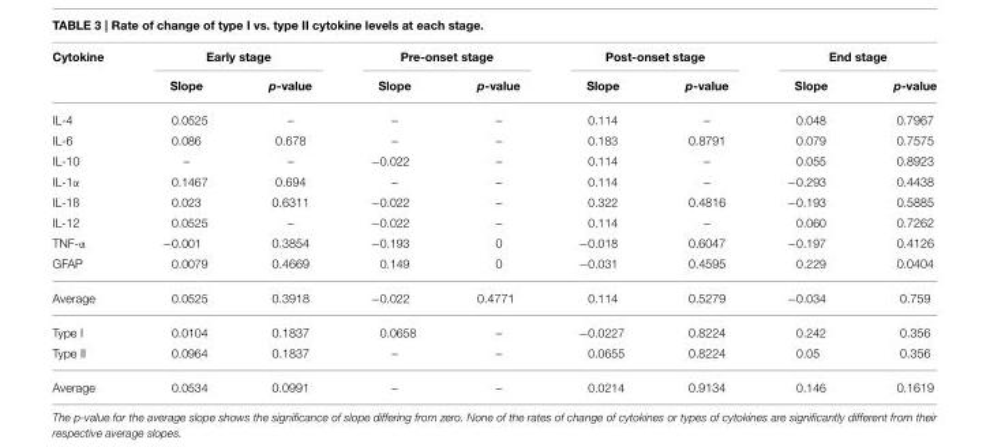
<table><thead><tr><td rowspan="2">Cytokine</td><td colspan="2">Early stage</td><td colspan="2">Pre-onset stage</td><td colspan="2">Post-onset stage</td><td colspan="2">End stage</td></tr><tr><td>Slope</td><td>p-value</td><td>Slope</td><td>p-value</td><td>Slope</td><td>p-value</td><td>Slope</td><td>p-value</td></tr></thead><tbody><tr><td>IL-4</td><td>0.0525</td><td>–</td><td>–</td><td>–</td><td>0.114</td><td>–</td><td>0.048</td><td>0.7967</td></tr><tr><td>IL-6</td><td>0.086</td><td>0.678</td><td>–</td><td>–</td><td>0.183</td><td>0.8791</td><td>0.079</td><td>0.7575</td></tr><tr><td>IL-10</td><td>–</td><td>–</td><td>−0.022</td><td>–</td><td>0.114</td><td>–</td><td>0.055</td><td>0.8923</td></tr><tr><td>IL-1α</td><td>0.1467</td><td>0.694</td><td>–</td><td>–</td><td>0.114</td><td>–</td><td>−0.293</td><td>0.4438</td></tr><tr><td>IL-1ß</td><td>0.023</td><td>0.6311</td><td>−0.022</td><td>–</td><td>0.322</td><td>0.4816</td><td>−0.193</td><td>0.5885</td></tr><tr><td>IL-12</td><td>0.0525</td><td>–</td><td>−0.022</td><td>–</td><td>0.114</td><td>–</td><td>0.060</td><td>0.7262</td></tr><tr><td>TNF-α</td><td>−0.001</td><td>0.3854</td><td>−0.193</td><td>0</td><td>−0.018</td><td>0.6047</td><td>−0.197</td><td>0.4126</td></tr><tr><td>GFAP</td><td>0.0079</td><td>0.4669</td><td>0.149</td><td>0</td><td>−0.031</td><td>0.4595</td><td>0.229</td><td>0.0404</td></tr><tr><td>Average</td><td>0.0525</td><td>0.3918</td><td>−0.022</td><td>0.4771</td><td>0.114</td><td>0.5279</td><td>−0.034</td><td>0.759</td></tr><tr><td>Type I</td><td>0.0104</td><td>0.1837</td><td>0.0658</td><td>–</td><td>−0.0227</td><td>0.8224</td><td>0.242</td><td>0.356</td></tr><tr><td>Type II</td><td>0.0964</td><td>0.1837</td><td>–</td><td>–</td><td>0.0655</td><td>0.8224</td><td>0.05</td><td>0.356</td></tr><tr><td>Average</td><td>0.0534</td><td>0.0991</td><td>–</td><td>–</td><td>0.0214</td><td>0.9134</td><td>0.146</td><td>0.1619</td></tr></tbody></table>